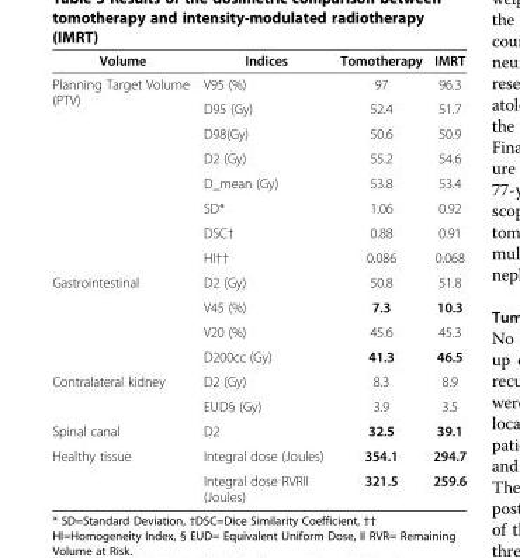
<table><thead><tr><td>Volume</td><td>Indices</td><td>Tomotherapy</td><td>IMRT</td></tr></thead><tbody><tr><td rowspan="8">Planning Target Volume (PTV)</td><td>V95 (%)</td><td>97</td><td>96.3</td></tr><tr><td>D95 (Gy)</td><td>52.4</td><td>51.7</td></tr><tr><td>D98(Gy)</td><td>50.6</td><td>50.9</td></tr><tr><td>D2 (Gy)</td><td>55.2</td><td>54.6</td></tr><tr><td>D_mean (Gy)</td><td>53.8</td><td>53.4</td></tr><tr><td>SD*</td><td>1.06</td><td>0.92</td></tr><tr><td>DSC†</td><td>0.88</td><td>0.91</td></tr><tr><td>HI††</td><td>0.086</td><td>0.068</td></tr><tr><td rowspan="4">Gastrointestinal</td><td>D2 (Gy)</td><td>50.8</td><td>51.8</td></tr><tr><td>V45 (%)</td><td>7.3</td><td>10.3</td></tr><tr><td>V20 (%)</td><td>45.6</td><td>45.3</td></tr><tr><td>D200cc (Gy)</td><td>41.3</td><td>46.5</td></tr><tr><td rowspan="2">Contralateral kidney</td><td>D2 (Gy)</td><td>8.3</td><td>8.9</td></tr><tr><td>EUD§ (Gy)</td><td>3.9</td><td>3.5</td></tr><tr><td>Spinal canal</td><td>D2</td><td>32.5</td><td>39.1</td></tr><tr><td rowspan="2">Healthy tissue</td><td>Integral dose (Joules)</td><td>354.1</td><td>294.7</td></tr><tr><td>Integral dose RVRII (Joules)</td><td>321.5</td><td>259.6</td></tr></tbody></table>